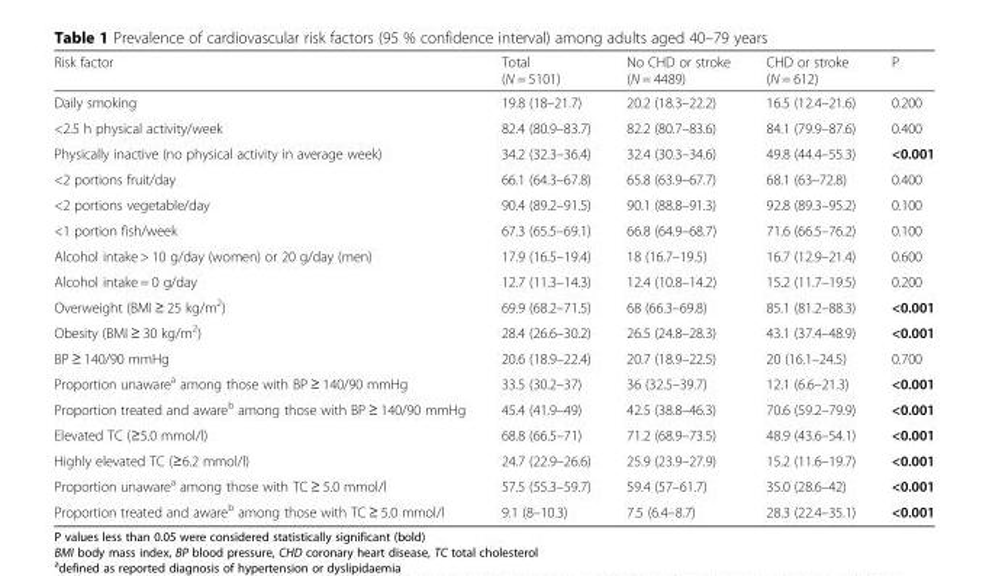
<table><thead><tr><td>Risk factor</td><td>Total (N = 5101)</td><td>No CHD or stroke (N = 4489)</td><td>CHD or stroke (N = 612)</td><td>P</td></tr></thead><tbody><tr><td>Daily smoking</td><td>19.8 (18–21.7)</td><td>20.2 (18.3–22.2)</td><td>16.5 (12.4–21.6)</td><td>0.200</td></tr><tr><td>&lt;2.5 h physical activity/week</td><td>82.4 (80.9–83.7)</td><td>82.2 (80.7–83.6)</td><td>84.1 (79.9–87.6)</td><td>0.400</td></tr><tr><td>Physically inactive (no physical activity in average week)</td><td>34.2 (32.3–36.4)</td><td>32.4 (30.3–34.6)</td><td>49.8 (44.4–55.3)</td><td>&lt;0.001</td></tr><tr><td>&lt;2 portions fruit/day</td><td>66.1 (64.3–67.8)</td><td>65.8 (63.9–67.7)</td><td>68.1 (63–72.8)</td><td>0.400</td></tr><tr><td>&lt;2 portions vegetable/day</td><td>90.4 (89.2–91.5)</td><td>90.1 (88.8–91.3)</td><td>92.8 (89.3–95.2)</td><td>0.100</td></tr><tr><td>&lt;1 portion fish/week</td><td>67.3 (65.5–69.1)</td><td>66.8 (64.9–68.7)</td><td>71.6 (66.5–76.2)</td><td>0.100</td></tr><tr><td>Alcohol intake &gt; 10 g/day (women) or 20 g/day (men)</td><td>17.9 (16.5–19.4)</td><td>18 (16.7–19.5)</td><td>16.7 (12.9–21.4)</td><td>0.600</td></tr><tr><td>Alcohol intake = 0 g/day</td><td>12.7 (11.3–14.3)</td><td>12.4 (10.8–14.2)</td><td>15.2 (11.7–19.5)</td><td>0.200</td></tr><tr><td>Overweight (BMI ≥ 25 kg/m<sup>2</sup>)</td><td>69.9 (68.2–71.5)</td><td>68 (66.3–69.8)</td><td>85.1 (81.2–88.3)</td><td>&lt;0.001</td></tr><tr><td>Obesity (BMI ≥ 30 kg/m<sup>2</sup>)</td><td>28.4 (26.6–30.2)</td><td>26.5 (24.8–28.3)</td><td>43.1 (37.4–48.9)</td><td>&lt;0.001</td></tr><tr><td>BP ≥ 140/90 mmHg</td><td>20.6 (18.9–22.4)</td><td>20.7 (18.9–22.5)</td><td>20 (16.1–24.5)</td><td>0.700</td></tr><tr><td>Proportion unaware<sup>a</sup> among those with BP ≥ 140/90 mmHg</td><td>33.5 (30.2–37)</td><td>36 (32.5–39.7)</td><td>12.1 (6.6–21.3)</td><td>&lt;0.001</td></tr><tr><td>Proportion treated and aware<sup>b</sup> among those with BP ≥ 140/90 mmHg</td><td>45.4 (41.9–49)</td><td>42.5 (38.8–46.3)</td><td>70.6 (59.2–79.9)</td><td>&lt;0.001</td></tr><tr><td>Elevated TC (≥5.0 mmol/l)</td><td>68.8 (66.5–71)</td><td>71.2 (68.9–73.5)</td><td>48.9 (43.6–54.1)</td><td>&lt;0.001</td></tr><tr><td>Highly elevated TC (≥6.2 mmol/l)</td><td>24.7 (22.9–26.6)</td><td>25.9 (23.9–27.9)</td><td>15.2 (11.6–19.7)</td><td>&lt;0.001</td></tr><tr><td>Proportion unaware<sup>a</sup> among those with TC ≥ 5.0 mmol/l</td><td>57.5 (55.3–59.7)</td><td>59.4 (57–61.7)</td><td>35.0 (28.6–42)</td><td>&lt;0.001</td></tr><tr><td>Proportion treated and aware<sup>b</sup> among those with TC ≥ 5.0 mmol/l</td><td>9.1 (8–10.3)</td><td>7.5 (6.4–8.7)</td><td>28.3 (22.4–35.1)</td><td>&lt;0.001</td></tr></tbody></table>